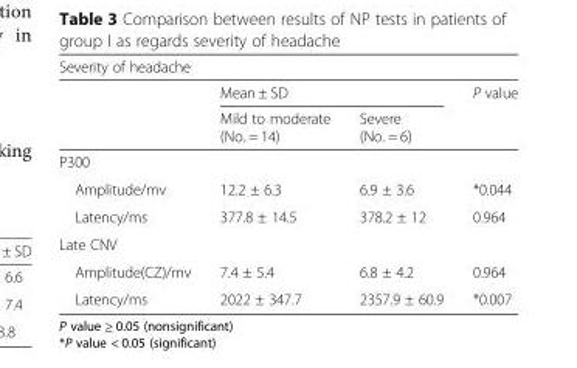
<table><thead><tr><td colspan="4">Severity of headache</td></tr><tr><td rowspan="2"></td><td colspan="2">Mean ± SD</td><td rowspan="2">P value</td></tr><tr><td>Mild to moderate (No. = 14)</td><td>Severe (No. = 6)</td></tr></thead><tbody><tr><td colspan="4">P300</td></tr><tr><td>Amplitude/mv</td><td>12.2 ± 6.3</td><td>6.9 ± 3.6</td><td>*0.044</td></tr><tr><td>Latency/ms</td><td>377.8 ± 14.5</td><td>378.2 ± 12</td><td>0.964</td></tr><tr><td colspan="4">Late CNV</td></tr><tr><td>Amplitude(CZ)/mv</td><td>7.4 ± 5.4</td><td>6.8 ± 4.2</td><td>0.964</td></tr><tr><td>Latency/ms</td><td>2022 ± 347.7</td><td>2357.9 ± 60.9</td><td>*0.007</td></tr></tbody></table>